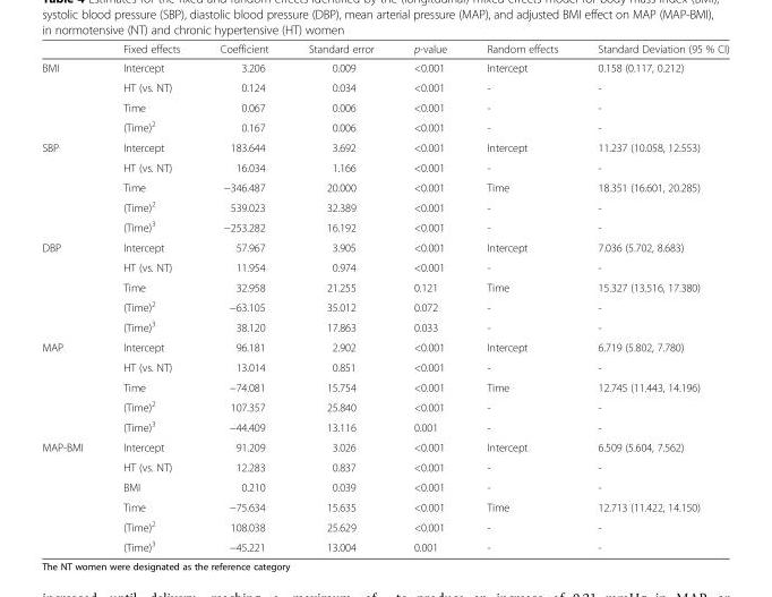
<table><thead><tr><td></td><td>Fixed effects</td><td>Coefficient</td><td>Standard error</td><td>p-value</td><td>Random effects</td><td>Standard Deviation (95 % CI)</td></tr></thead><tbody><tr><td rowspan="4">BMI</td><td>Intercept</td><td>3.206</td><td>0.009</td><td>&lt;0.001</td><td>Intercept</td><td>0.158 (0.117, 0.212)</td></tr><tr><td>HT (vs. NT)</td><td>0.124</td><td>0.034</td><td>&lt;0.001</td><td>-</td><td>-</td></tr><tr><td>Time</td><td>0.067</td><td>0.006</td><td>&lt;0.001</td><td>-</td><td>-</td></tr><tr><td>(Time)<sup>2</sup></td><td>0.167</td><td>0.006</td><td>&lt;0.001</td><td>-</td><td>-</td></tr><tr><td rowspan="5">SBP</td><td>Intercept</td><td>183.644</td><td>3.692</td><td>&lt;0.001</td><td>Intercept</td><td>11.237 (10.058, 12.553)</td></tr><tr><td>HT (vs. NT)</td><td>16.034</td><td>1.166</td><td>&lt;0.001</td><td>-</td><td>-</td></tr><tr><td>Time</td><td>−346.487</td><td>20.000</td><td>&lt;0.001</td><td>Time</td><td>18.351 (16.601, 20.285)</td></tr><tr><td>(Time)<sup>2</sup></td><td>539.023</td><td>32.389</td><td>&lt;0.001</td><td>-</td><td>-</td></tr><tr><td>(Time)<sup>3</sup></td><td>−253.282</td><td>16.192</td><td>&lt;0.001</td><td>-</td><td>-</td></tr><tr><td rowspan="5">DBP</td><td>Intercept</td><td>57.967</td><td>3.905</td><td>&lt;0.001</td><td>Intercept</td><td>7.036 (5.702, 8.683)</td></tr><tr><td>HT (vs. NT)</td><td>11.954</td><td>0.974</td><td>&lt;0.001</td><td>-</td><td>-</td></tr><tr><td>Time</td><td>32.958</td><td>21.255</td><td>0.121</td><td>Time</td><td>15.327 (13.516, 17.380)</td></tr><tr><td>(Time)<sup>2</sup></td><td>−63.105</td><td>35.012</td><td>0.072</td><td>-</td><td>-</td></tr><tr><td>(Time)<sup>3</sup></td><td>38.120</td><td>17.863</td><td>0.033</td><td>-</td><td>-</td></tr><tr><td rowspan="5">MAP</td><td>Intercept</td><td>96.181</td><td>2.902</td><td>&lt;0.001</td><td>Intercept</td><td>6.719 (5.802, 7.780)</td></tr><tr><td>HT (vs. NT)</td><td>13.014</td><td>0.851</td><td>&lt;0.001</td><td>-</td><td>-</td></tr><tr><td>Time</td><td>−74.081</td><td>15.754</td><td>&lt;0.001</td><td>Time</td><td>12.745 (11.443, 14.196)</td></tr><tr><td>(Time)<sup>2</sup></td><td>107.357</td><td>25.840</td><td>&lt;0.001</td><td>-</td><td>-</td></tr><tr><td>(Time)<sup>3</sup></td><td>−44.409</td><td>13.116</td><td>0.001</td><td>-</td><td>-</td></tr><tr><td rowspan="6">MAP-BMI</td><td>Intercept</td><td>91.209</td><td>3.026</td><td>&lt;0.001</td><td>Intercept</td><td>6.509 (5.604, 7.562)</td></tr><tr><td>HT (vs. NT)</td><td>12.283</td><td>0.837</td><td>&lt;0.001</td><td>-</td><td>-</td></tr><tr><td>BMI</td><td>0.210</td><td>0.039</td><td>&lt;0.001</td><td>-</td><td>-</td></tr><tr><td>Time</td><td>−75.634</td><td>15.635</td><td>&lt;0.001</td><td>Time</td><td>12.713 (11.422, 14.150)</td></tr><tr><td>(Time)<sup>2</sup></td><td>108.038</td><td>25.629</td><td>&lt;0.001</td><td>-</td><td>-</td></tr><tr><td>(Time)<sup>3</sup></td><td>−45.221</td><td>13.004</td><td>0.001</td><td>-</td><td>-</td></tr></tbody></table>